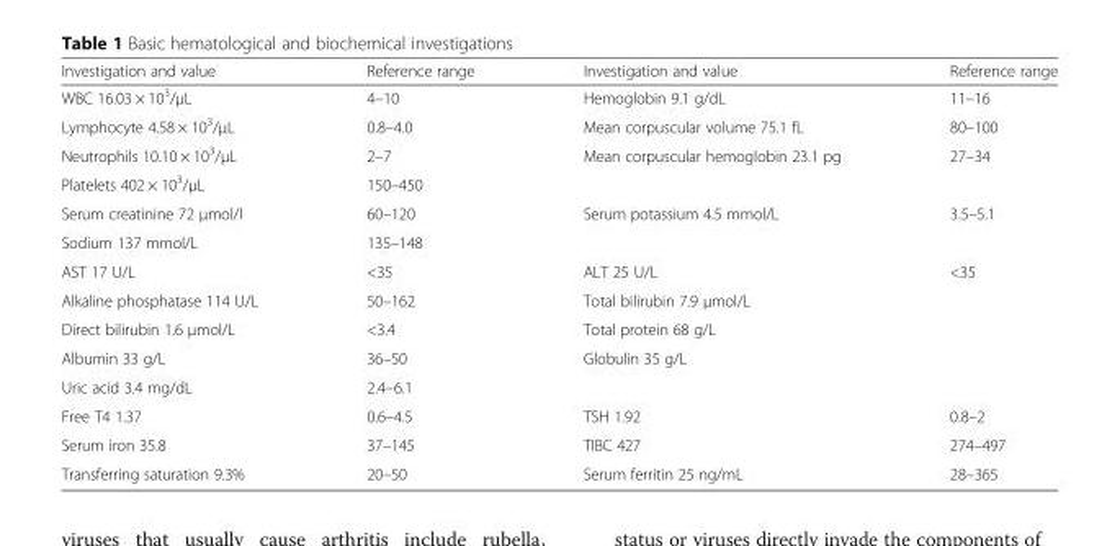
<table><thead><tr><td>Investigation and value</td><td>Reference range</td><td>Investigation and value</td><td>Reference range</td></tr></thead><tbody><tr><td>WBC 16.03 × 10<sup>3</sup>/μL</td><td>4–10</td><td>Hemoglobin 9.1 g/dL</td><td>11–16</td></tr><tr><td>Lymphocyte 4.58 × 10<sup>3</sup>/μL</td><td>0.8–4.0</td><td>Mean corpuscular volume 75.1 fL</td><td>80–100</td></tr><tr><td>Neutrophils 10.10 × 10<sup>3</sup>/μL</td><td>2–7</td><td>Mean corpuscular hemoglobin 23.1 pg</td><td>27–34</td></tr><tr><td>Platelets 402 × 10<sup>3</sup>/μL</td><td>150–450</td><td></td><td></td></tr><tr><td>Serum creatinine 72 μmol/l</td><td>60–120</td><td>Serum potassium 4.5 mmol/L</td><td>3.5–5.1</td></tr><tr><td>Sodium 137 mmol/L</td><td>135–148</td><td></td><td></td></tr><tr><td>AST 17 U/L</td><td>&lt;35</td><td>ALT 25 U/L</td><td>&lt;35</td></tr><tr><td>Alkaline phosphatase 114 U/L</td><td>50–162</td><td>Total bilirubin 7.9 μmol/L</td><td></td></tr><tr><td>Direct bilirubin 1.6 μmol/L</td><td>&lt;3.4</td><td>Total protein 68 g/L</td><td></td></tr><tr><td>Albumin 33 g/L</td><td>36–50</td><td>Globulin 35 g/L</td><td></td></tr><tr><td>Uric acid 3.4 mg/dL</td><td>2.4–6.1</td><td></td><td></td></tr><tr><td>Free T4 1.37</td><td>0.6–4.5</td><td>TSH 1.92</td><td>0.8–2</td></tr><tr><td>Serum iron 35.8</td><td>37–145</td><td>TIBC 427</td><td>274–497</td></tr><tr><td>Transferring saturation 9.3%</td><td>20–50</td><td>Serum ferritin 25 ng/mL</td><td>28–365</td></tr></tbody></table>